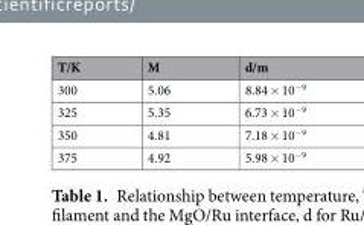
<table><thead><tr><td>T/K</td><td>M</td><td>d/m</td></tr></thead><tbody><tr><td>300</td><td>5.06</td><td>8.84 × 10<sup>−9</sup></td></tr><tr><td>325</td><td>5.35</td><td>6.73 × 10<sup>−9</sup></td></tr><tr><td>350</td><td>4.81</td><td>7.18 × 10<sup>−9</sup></td></tr><tr><td>375</td><td>4.92</td><td>5.98 × 10<sup>−9</sup></td></tr></tbody></table>